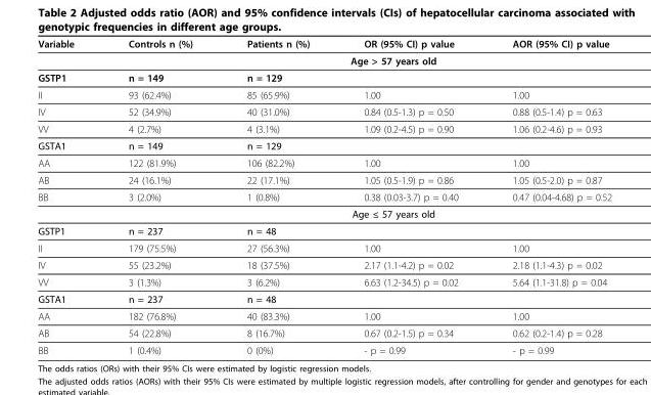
<table><thead><tr><td>Variable</td><td>Controls n (%)</td><td>Patients n (%)</td><td>OR (95% CI) p value</td><td>AOR (95% CI) p value</td></tr></thead><tbody><tr><td></td><td colspan="4">Age &gt; 57 years old</td></tr><tr><td>GSTP1</td><td>n = 149</td><td>n = 129</td><td></td><td></td></tr><tr><td>II</td><td>93 (62.4%)</td><td>85 (65.9%)</td><td>1.00</td><td>1.00</td></tr><tr><td>IV</td><td>52 (34.9%)</td><td>40 (31.0%)</td><td>0.84 (0.5-1.3) p = 0.50</td><td>0.88 (0.5-1.4) p = 0.63</td></tr><tr><td>VV</td><td>4 (2.7%)</td><td>4 (3.1%)</td><td>1.09 (0.2-4.5) p = 0.90</td><td>1.06 (0.2-4.6) p = 0.93</td></tr><tr><td>GSTA1</td><td>n = 149</td><td>n = 129</td><td></td><td></td></tr><tr><td>AA</td><td>122 (81.9%)</td><td>106 (82.2%)</td><td>1.00</td><td>1.00</td></tr><tr><td>AB</td><td>24 (16.1%)</td><td>22 (17.1%)</td><td>1.05 (0.5-1.9) p = 0.86</td><td>1.05 (0.5-2.0) p = 0.87</td></tr><tr><td rowspan="2">BB</td><td>3 (2.0%)</td><td>1 (0.8%)</td><td>0.38 (0.03-3.7) p = 0.40</td><td>0.47 (0.04-4.68) p = 0.52</td></tr><tr><td colspan="4">Age ≤ 57 years old</td></tr><tr><td>GSTP1</td><td>n = 237</td><td>n = 48</td><td></td><td></td></tr><tr><td>II</td><td>179 (75.5%)</td><td>27 (56.3%)</td><td>1.00</td><td>1.00</td></tr><tr><td>IV</td><td>55 (23.2%)</td><td>18 (37.5%)</td><td>2.17 (1.1-4.2) p = 0.02</td><td>2.18 (1.1-4.3) p = 0.02</td></tr><tr><td>VV</td><td>3 (1.3%)</td><td>3 (6.2%)</td><td>6.63 (1.2-34.5) p = 0.02</td><td>5.64 (1.1-31.8) p = 0.04</td></tr><tr><td>GSTA1</td><td>n = 237</td><td>n = 48</td><td></td><td></td></tr><tr><td>AA</td><td>182 (76.8%)</td><td>40 (83.3%)</td><td>1.00</td><td>1.00</td></tr><tr><td>AB</td><td>54 (22.8%)</td><td>8 (16.7%)</td><td>0.67 (0.2-1.5) p = 0.34</td><td>0.62 (0.2-1.4) p = 0.28</td></tr><tr><td>BB</td><td>1 (0.4%)</td><td>0 (0%)</td><td>- p = 0.99</td><td>- p = 0.99</td></tr></tbody></table>